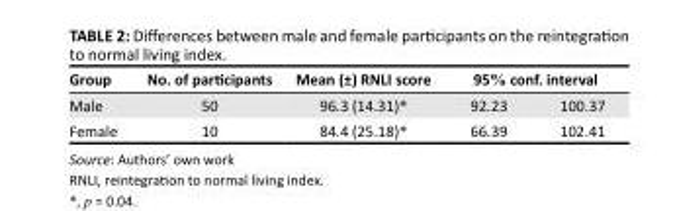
<table><thead><tr><td rowspan="2">Group Male</td><td rowspan="2">No. of participants 50</td><td rowspan="2">Mean (±) RNLI score 96.3 (14.31)*</td><td colspan="2">95% conf. interval</td></tr><tr><td>92.23</td><td>100.37</td></tr></thead><tbody><tr><td>Female</td><td>10</td><td>84.4 (25.18)*</td><td>66.39</td><td>102.41</td></tr></tbody></table>